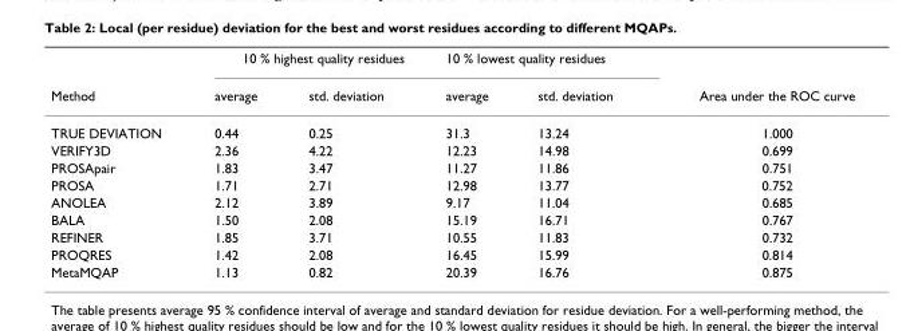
<table><thead><tr><td rowspan="2">Method</td><td colspan="2">10 % highest quality residues</td><td colspan="2">10 % lowest quality residues</td><td rowspan="2">Area under the ROC curve</td></tr><tr><td>average</td><td>std. deviation</td><td>average</td><td>std. deviation</td></tr></thead><tbody><tr><td>TRUE DEVIATION</td><td>0.44</td><td>0.25</td><td>31.3</td><td>13.24</td><td>1.000</td></tr><tr><td>VERIFY3D</td><td>2.36</td><td>4.22</td><td>12.23</td><td>14.98</td><td>0.699</td></tr><tr><td>PROSApair</td><td>1.83</td><td>3.47</td><td>11.27</td><td>11.86</td><td>0.751</td></tr><tr><td>PROSA</td><td>1.71</td><td>2.71</td><td>12.98</td><td>13.77</td><td>0.752</td></tr><tr><td>ANOLEA</td><td>2.12</td><td>3.89</td><td>9.17</td><td>11.04</td><td>0.685</td></tr><tr><td>BALA</td><td>1.50</td><td>2.08</td><td>15.19</td><td>16.71</td><td>0.767</td></tr><tr><td>REFINER</td><td>1.85</td><td>3.71</td><td>10.55</td><td>11.83</td><td>0.732</td></tr><tr><td>PROQRES</td><td>1.42</td><td>2.08</td><td>16.45</td><td>15.99</td><td>0.814</td></tr><tr><td>MetaMQAP</td><td>1.13</td><td>0.82</td><td>20.39</td><td>16.76</td><td>0.875</td></tr></tbody></table>